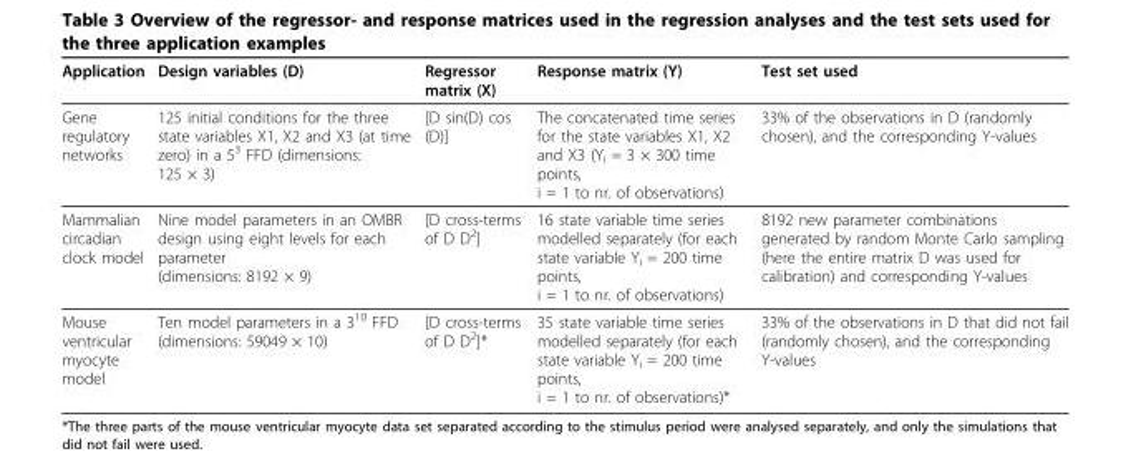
<table><thead><tr><td>Application</td><td>Design variables (D)</td><td>Regressor matrix (X)</td><td>Response matrix (Y)</td><td>Test set used</td></tr></thead><tbody><tr><td>Gene regulatory networks</td><td>125 initial conditions for the three state variables X1, X2 and X3 (at time zero) in a 5<sup>3</sup> FFD (dimensions: 125 × 3)</td><td>[D sin(D) cos (D)]</td><td>The concatenated time series for the state variables X1, X2 and X3 (Y<sub>i</sub> = 3 × 300 time points, i = 1 to nr. of observations)</td><td>33% of the observations in D (randomly chosen), and the corresponding Y-values</td></tr><tr><td>Mammalian circadian clock model</td><td>Nine model parameters in an OMBR design using eight levels for each parameter (dimensions: 8192 × 9)</td><td>[D cross-terms of D D<sup>2</sup>]</td><td>16 state variable time series modelled separately (for each state variable Y<sub>i</sub> = 200 time points, i = 1 to nr. of observations)</td><td>8192 new parameter combinations generated by random Monte Carlo sampling (here the entire matrix D was used for calibration) and corresponding Y-values</td></tr><tr><td>Mouse ventricular myocyte model</td><td>Ten model parameters in a 3<sup>10</sup> FFD (dimensions: 59049 × 10)</td><td>[D cross-terms of D D<sup>2</sup>]*</td><td>35 state variable time series modelled separately (for each state variable Y<sub>i</sub> = 200 time points, i = 1 to nr. of observations)*</td><td>33% of the observations in D that did not fail (randomly chosen), and the corresponding Y-values</td></tr></tbody></table>